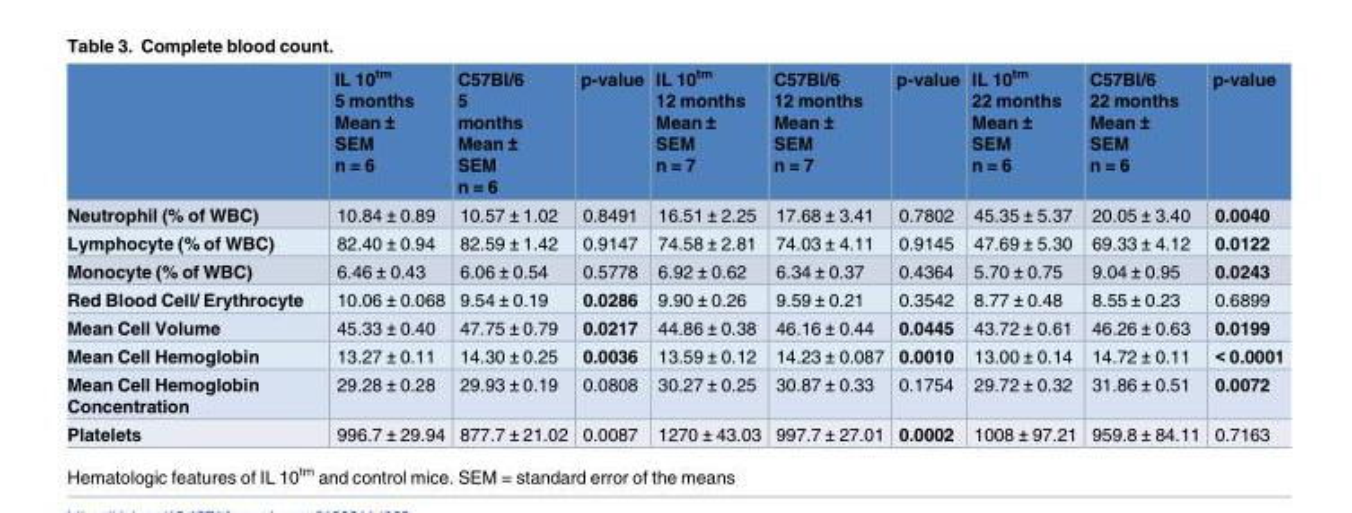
<table><thead><tr><td></td><td>IL 10<sup>tm</sup> 5 months Mean ± SEM n = 6</td><td>C57Bl/6 5 months Mean ± SEM n = 6</td><td>p-value</td><td>IL 10<sup>tm</sup> 12 months Mean ± SEM n = 7</td><td>C57Bl/6 12 months Mean ± SEM n = 7</td><td>p-value</td><td>IL 10<sup>tm</sup> 22 months Mean ± SEM n = 6</td><td>C57Bl/6 22 months Mean ± SEM n = 6</td><td>p-value</td></tr></thead><tbody><tr><td>Neutrophil (% of WBC)</td><td>10.84 ± 0.89</td><td>10.57 ± 1.02</td><td>0.8491</td><td>16.51 ± 2.25</td><td>17.68 ± 3.41</td><td>0.7802</td><td>45.35 ± 5.37</td><td>20.05 ± 3.40</td><td>0.0040</td></tr><tr><td>Lymphocyte (% of WBC)</td><td>82.40 ± 0.94</td><td>82.59 ± 1.42</td><td>0.9147</td><td>74.58 ± 2.81</td><td>74.03 ± 4.11</td><td>0.9145</td><td>47.69 ± 5.30</td><td>69.33 ± 4.12</td><td>0.0122</td></tr><tr><td>Monocyte (% of WBC)</td><td>6.46 ± 0.43</td><td>6.06 ± 0.54</td><td>0.5778</td><td>6.92 ± 0.62</td><td>6.34 ± 0.37</td><td>0.4364</td><td>5.70 ± 0.75</td><td>9.04 ± 0.95</td><td>0.0243</td></tr><tr><td>Red Blood Cell/ Erythrocyte</td><td>10.06 ± 0.068</td><td>9.54 ± 0.19</td><td>0.0286</td><td>9.90 ± 0.26</td><td>9.59 ± 0.21</td><td>0.3542</td><td>8.77 ± 0.48</td><td>8.55 ± 0.23</td><td>0.6899</td></tr><tr><td>Mean Cell Volume</td><td>45.33 ± 0.40</td><td>47.75 ± 0.79</td><td>0.0217</td><td>44.86 ± 0.38</td><td>46.16 ± 0.44</td><td>0.0445</td><td>43.72 ± 0.61</td><td>46.26 ± 0.63</td><td>0.0199</td></tr><tr><td>Mean Cell Hemoglobin</td><td>13.27 ± 0.11</td><td>14.30 ± 0.25</td><td>0.0036</td><td>13.59 ± 0.12</td><td>14.23 ± 0.087</td><td>0.0010</td><td>13.00 ± 0.14</td><td>14.72 ± 0.11</td><td>&lt; 0.0001</td></tr><tr><td>Mean Cell Hemoglobin Concentration</td><td>29.28 ± 0.28</td><td>29.93 ± 0.19</td><td>0.0808</td><td>30.27 ± 0.25</td><td>30.87 ± 0.33</td><td>0.1754</td><td>29.72 ± 0.32</td><td>31.86 ± 0.51</td><td>0.0072</td></tr><tr><td>Platelets</td><td>996.7 ± 29.94</td><td>877.7 ± 21.02</td><td>0.0087</td><td>1270 ± 43.03</td><td>997.7 ± 27.01</td><td>0.0002</td><td>1008 ± 97.21</td><td>959.8 ± 84.11</td><td>0.7163</td></tr></tbody></table>